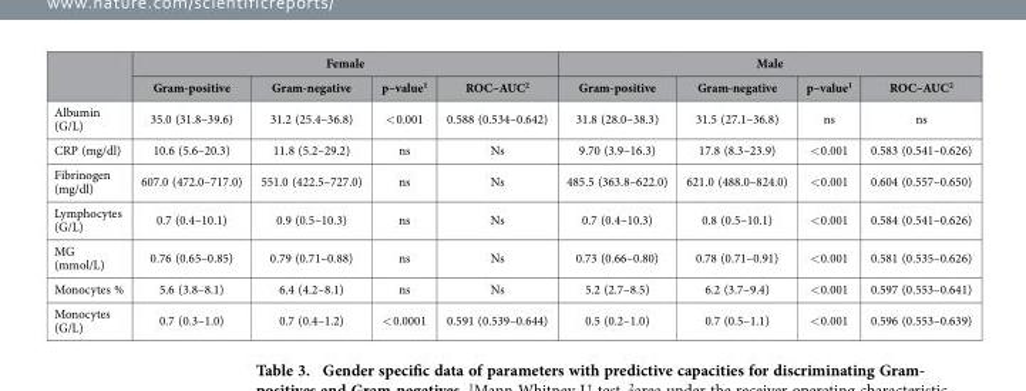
<table><thead><tr><td rowspan="2"></td><td colspan="4">Female</td><td colspan="4">Male</td></tr><tr><td>Gram-positive</td><td>Gram-negative</td><td>p–value<sup>1</sup></td><td>ROC–AUC<sup>2</sup></td><td>Gram-positive</td><td>Gram-negative</td><td>p–value<sup>1</sup></td><td>ROC–AUC<sup>2</sup></td></tr></thead><tbody><tr><td>Albumin (G/L)</td><td>35.0 (31.8–39.6)</td><td>31.2 (25.4–36.8)</td><td>&lt; 0.001</td><td>0.588 (0.534–0.642)</td><td>31.8 (28.0–38.3)</td><td>31.5 (27.1–36.8)</td><td>ns</td><td>ns</td></tr><tr><td>CRP (mg/dl)</td><td>10.6 (5.6–20.3)</td><td>11.8 (5.2–29.2)</td><td>ns</td><td>Ns</td><td>9.70 (3.9–16.3)</td><td>17.8 (8.3–23.9)</td><td>&lt; 0.001</td><td>0.583 (0.541–0.626)</td></tr><tr><td>Fibrinogen (mg/dl)</td><td>607.0 (472.0–717.0)</td><td>551.0 (422.5–727.0)</td><td>ns</td><td>Ns</td><td>485.5 (363.8–622.0)</td><td>621.0 (488.0–824.0)</td><td>&lt; 0.001</td><td>0.604 (0.557–0.650)</td></tr><tr><td>Lymphocytes (G/L)</td><td>0.7 (0.4–10.1)</td><td>0.9 (0.5–10.3)</td><td>ns</td><td>Ns</td><td>0.7 (0.4–10.3)</td><td>0.8 (0.5–10.1)</td><td>&lt; 0.001</td><td>0.584 (0.541–0.626)</td></tr><tr><td>MG (mmol/L)</td><td>0.76 (0.65–0.85)</td><td>0.79 (0.71–0.88)</td><td>ns</td><td>Ns</td><td>0.73 (0.66–0.80)</td><td>0.78 (0.71–0.91)</td><td>&lt; 0.001</td><td>0.581 (0.535–0.626)</td></tr><tr><td>Monocytes %</td><td>5.6 (3.8–8.1)</td><td>6.4 (4.2–8.1)</td><td>ns</td><td>Ns</td><td>5.2 (2.7–8.5)</td><td>6.2 (3.7–9.4)</td><td>&lt; 0.001</td><td>0.597 (0.553–0.641)</td></tr><tr><td>Monocytes (G/L)</td><td>0.7 (0.3–1.0)</td><td>0.7 (0.4–1.2)</td><td>&lt; 0.0001</td><td>0.591 (0.539–0.644)</td><td>0.5 (0.2–1.0)</td><td>0.7 (0.5–1.1)</td><td>&lt; 0.001</td><td>0.596 (0.553–0.639)</td></tr></tbody></table>